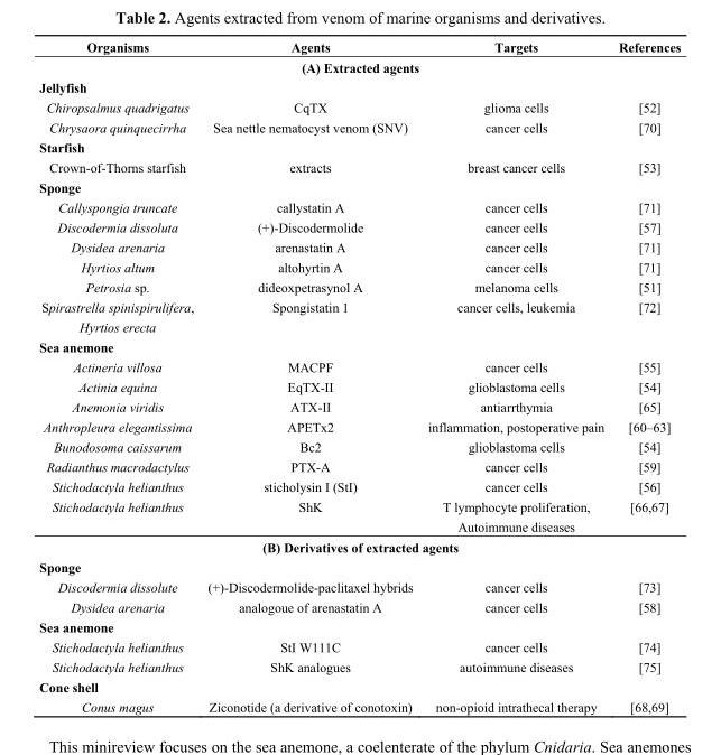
<table><thead><tr><td>Organisms</td><td>Agents</td><td>Targets</td><td>References</td></tr></thead><tbody><tr><td colspan="4">(A) Extracted agents</td></tr><tr><td colspan="4">Jellyfish</td></tr><tr><td>Chiropsalmus quadrigatus</td><td>CqTX</td><td>glioma cells</td><td>[52]</td></tr><tr><td>Chrysaora quinquecirrha</td><td>Sea nettle nematocyst venom (SNV)</td><td>cancer cells</td><td>[70]</td></tr><tr><td colspan="4">Starfish</td></tr><tr><td>Crown-of-Thorns starfish</td><td>extracts</td><td>breast cancer cells</td><td>[53]</td></tr><tr><td colspan="4">Sponge</td></tr><tr><td>Callyspongia truncate</td><td>callystatin A</td><td>cancer cells</td><td>[71]</td></tr><tr><td>Discodermia dissoluta</td><td>(+)-Discodermolide</td><td>cancer cells</td><td>[57]</td></tr><tr><td>Dysidea arenaria</td><td>arenastatin A</td><td>cancer cells</td><td>[71]</td></tr><tr><td>Hyrtios altum</td><td>altohyrtin A</td><td>cancer cells</td><td>[71]</td></tr><tr><td>Petrosia sp.</td><td>dideoxpetrasynol A</td><td>melanoma cells</td><td>[51]</td></tr><tr><td>Spirastrella spinispirulifera, Hyrtios erecta</td><td>Spongistatin 1</td><td>cancer cells, leukemia</td><td>[72]</td></tr><tr><td colspan="4">Sea anemone</td></tr><tr><td>Actineria villosa</td><td>MACPF</td><td>cancer cells</td><td>[55]</td></tr><tr><td>Actinia equina</td><td>EqTX-II</td><td>glioblastoma cells</td><td>[54]</td></tr><tr><td>Anemonia viridis</td><td>ATX-II</td><td>antiarrthymia</td><td>[65]</td></tr><tr><td>Anthropleura elegantissima</td><td>APETx2</td><td>inflammation, postoperative pain</td><td>[60–63]</td></tr><tr><td>Bunodosoma caissarum</td><td>Bc2</td><td>glioblastoma cells</td><td>[54]</td></tr><tr><td>Radianthus macrodactylus</td><td>PTX-A</td><td>cancer cells</td><td>[59]</td></tr><tr><td>Stichodactyla helianthus</td><td>sticholysin I (StI)</td><td>cancer cells</td><td>[56]</td></tr><tr><td>Stichodactyla helianthus</td><td>ShK</td><td>T lymphocyte proliferation, Autoimmune diseases</td><td>[66,67]</td></tr><tr><td colspan="4">(B) Derivatives of extracted agents</td></tr><tr><td colspan="4">Sponge</td></tr><tr><td>Discodermia dissolute</td><td>(+)-Discodermolide-paclitaxel hybrids</td><td>cancer cells</td><td>[73]</td></tr><tr><td>Dysidea arenaria</td><td>analogoue of arenastatin A</td><td>cancer cells</td><td>[58]</td></tr><tr><td colspan="4">Sea anemone</td></tr><tr><td>Stichodactyla helianthus</td><td>StI W111C</td><td>cancer cells</td><td>[74]</td></tr><tr><td>Stichodactyla helianthus</td><td>ShK analogues</td><td>autoimmune diseases</td><td>[75]</td></tr><tr><td colspan="4">Cone shell</td></tr><tr><td>Conus magus</td><td>Ziconotide (a derivative of conotoxin)</td><td>non-opioid intrathecal therapy</td><td>[68,69]</td></tr></tbody></table>